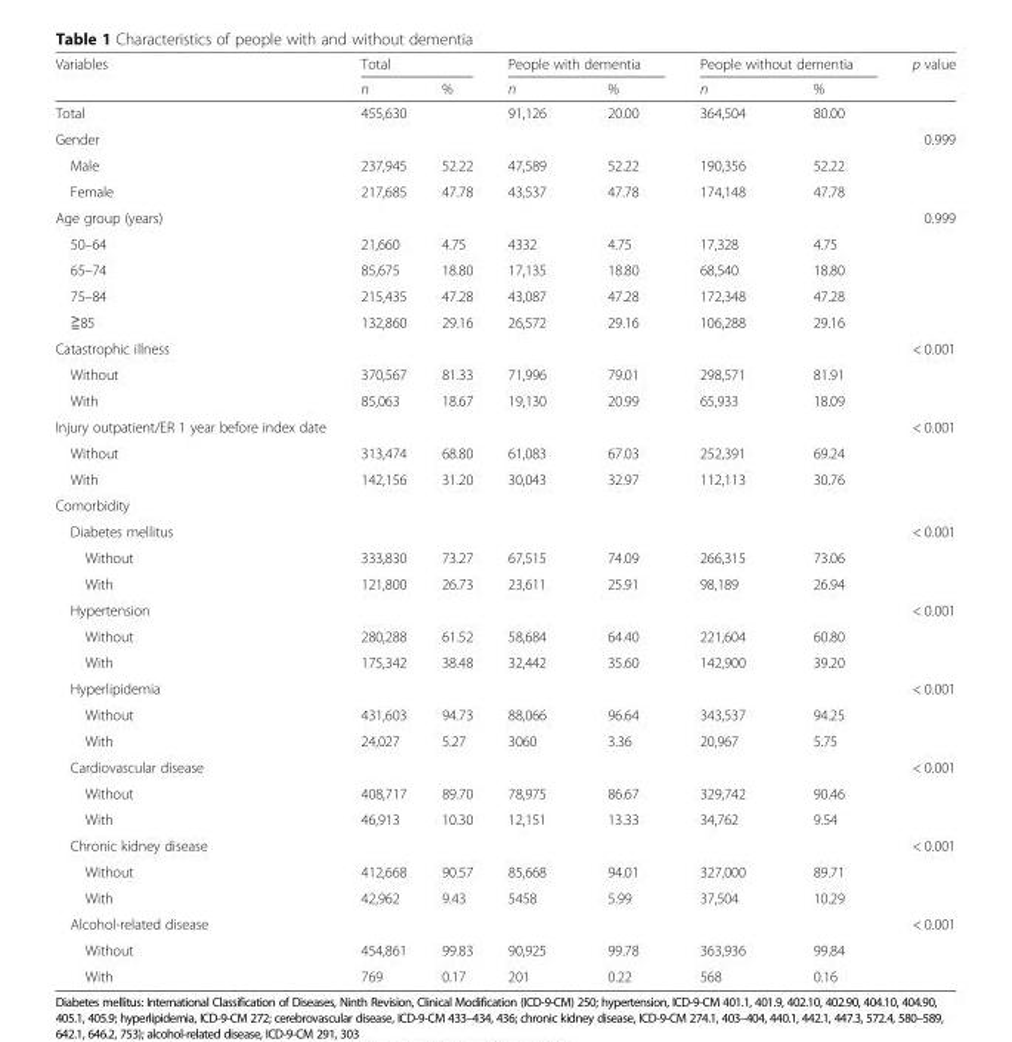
<table><thead><tr><td rowspan="2">Variables</td><td colspan="2">Total</td><td colspan="2">People with dementia</td><td colspan="2">People without dementia</td><td rowspan="2">p value</td></tr><tr><td>n</td><td>%</td><td>n</td><td>%</td><td>n</td><td>%</td></tr></thead><tbody><tr><td>Total</td><td>455,630</td><td></td><td>91,126</td><td>20.00</td><td>364,504</td><td>80.00</td><td></td></tr><tr><td>Gender</td><td></td><td></td><td></td><td></td><td></td><td></td><td>0.999</td></tr><tr><td>Male</td><td>237,945</td><td>52.22</td><td>47,589</td><td>52.22</td><td>190,356</td><td>52.22</td><td></td></tr><tr><td>Female</td><td>217,685</td><td>47.78</td><td>43,537</td><td>47.78</td><td>174,148</td><td>47.78</td><td></td></tr><tr><td>Age group (years)</td><td></td><td></td><td></td><td></td><td></td><td></td><td>0.999</td></tr><tr><td>50–64</td><td>21,660</td><td>4.75</td><td>4332</td><td>4.75</td><td>17,328</td><td>4.75</td><td></td></tr><tr><td>65–74</td><td>85,675</td><td>18.80</td><td>17,135</td><td>18.80</td><td>68,540</td><td>18.80</td><td></td></tr><tr><td>75–84</td><td>215,435</td><td>47.28</td><td>43,087</td><td>47.28</td><td>172,348</td><td>47.28</td><td></td></tr><tr><td>≧85</td><td>132,860</td><td>29.16</td><td>26,572</td><td>29.16</td><td>106,288</td><td>29.16</td><td></td></tr><tr><td>Catastrophic illness</td><td></td><td></td><td></td><td></td><td></td><td></td><td>&lt; 0.001</td></tr><tr><td>Without</td><td>370,567</td><td>81.33</td><td>71,996</td><td>79.01</td><td>298,571</td><td>81.91</td><td></td></tr><tr><td>With</td><td>85,063</td><td>18.67</td><td>19,130</td><td>20.99</td><td>65,933</td><td>18.09</td><td></td></tr><tr><td>Injury outpatient/ER 1 year before index date</td><td></td><td></td><td></td><td></td><td></td><td></td><td>&lt; 0.001</td></tr><tr><td>Without</td><td>313,474</td><td>68.80</td><td>61,083</td><td>67.03</td><td>252,391</td><td>69.24</td><td></td></tr><tr><td>With</td><td>142,156</td><td>31.20</td><td>30,043</td><td>32.97</td><td>112,113</td><td>30.76</td><td></td></tr><tr><td colspan="8">Comorbidity</td></tr><tr><td>Diabetes mellitus</td><td></td><td></td><td></td><td></td><td></td><td></td><td>&lt; 0.001</td></tr><tr><td>Without</td><td>333,830</td><td>73.27</td><td>67,515</td><td>74.09</td><td>266,315</td><td>73.06</td><td></td></tr><tr><td>With</td><td>121,800</td><td>26.73</td><td>23,611</td><td>25.91</td><td>98,189</td><td>26.94</td><td></td></tr><tr><td>Hypertension</td><td></td><td></td><td></td><td></td><td></td><td></td><td>&lt; 0.001</td></tr><tr><td>Without</td><td>280,288</td><td>61.52</td><td>58,684</td><td>64.40</td><td>221,604</td><td>60.80</td><td></td></tr><tr><td>With</td><td>175,342</td><td>38.48</td><td>32,442</td><td>35.60</td><td>142,900</td><td>39.20</td><td></td></tr><tr><td>Hyperlipidemia</td><td></td><td></td><td></td><td></td><td></td><td></td><td>&lt; 0.001</td></tr><tr><td>Without</td><td>431,603</td><td>94.73</td><td>88,066</td><td>96.64</td><td>343,537</td><td>94.25</td><td></td></tr><tr><td>With</td><td>24,027</td><td>5.27</td><td>3060</td><td>3.36</td><td>20,967</td><td>5.75</td><td></td></tr><tr><td>Cardiovascular disease</td><td></td><td></td><td></td><td></td><td></td><td></td><td>&lt; 0.001</td></tr><tr><td>Without</td><td>408,717</td><td>89.70</td><td>78,975</td><td>86.67</td><td>329,742</td><td>90.46</td><td></td></tr><tr><td>With</td><td>46,913</td><td>10.30</td><td>12,151</td><td>13.33</td><td>34,762</td><td>9.54</td><td></td></tr><tr><td>Chronic kidney disease</td><td></td><td></td><td></td><td></td><td></td><td></td><td>&lt; 0.001</td></tr><tr><td>Without</td><td>412,668</td><td>90.57</td><td>85,668</td><td>94.01</td><td>327,000</td><td>89.71</td><td></td></tr><tr><td>With</td><td>42,962</td><td>9.43</td><td>5458</td><td>5.99</td><td>37,504</td><td>10.29</td><td></td></tr><tr><td>Alcohol-related disease</td><td></td><td></td><td></td><td></td><td></td><td></td><td>&lt; 0.001</td></tr><tr><td>Without</td><td>454,861</td><td>99.83</td><td>90,925</td><td>99.78</td><td>363,936</td><td>99.84</td><td></td></tr><tr><td>With</td><td>769</td><td>0.17</td><td>201</td><td>0.22</td><td>568</td><td>0.16</td><td></td></tr></tbody></table>